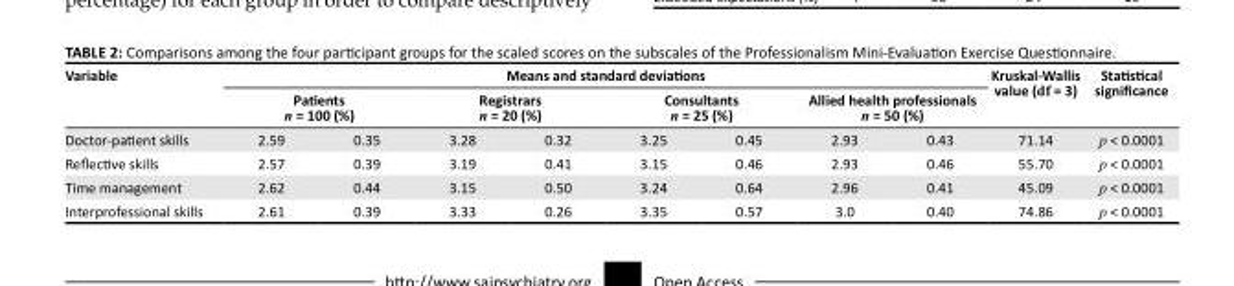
<table><thead><tr><td rowspan="3">Variable Doctor-patient skills</td><td colspan="8">Means and standard deviations</td><td rowspan="3">Kruskal-Wallis value (df = 3) 71.14</td><td rowspan="3">Statistical significance p &lt; 0.0001</td></tr><tr><td colspan="2">Patients n = 100 (%)</td><td colspan="2">Registrars n = 20 (%)</td><td colspan="2">Consultants n = 25 (%)</td><td colspan="2">Allied health professionals n = 50 (%)</td></tr><tr><td>2.59</td><td>0.35</td><td>3.28</td><td>0.32</td><td>3.25</td><td>0.45</td><td>2.93</td><td>0.43</td></tr></thead><tbody><tr><td>Reflective skills</td><td>2.57</td><td>0.39</td><td>3.19</td><td>0.41</td><td>3.15</td><td>0.46</td><td>2.93</td><td>0.46</td><td>55.70</td><td>p &lt; 0.0001</td></tr><tr><td>Time management</td><td>2.62</td><td>0.44</td><td>3.15</td><td>0.50</td><td>3.24</td><td>0.64</td><td>2.96</td><td>0.41</td><td>45.09</td><td>p &lt; 0.0001</td></tr><tr><td>Interprofessional skills</td><td>2.61</td><td>0.39</td><td>3.33</td><td>0.26</td><td>3.35</td><td>0.57</td><td>3.0</td><td>0.40</td><td>74.86</td><td>p &lt; 0.0001</td></tr></tbody></table>